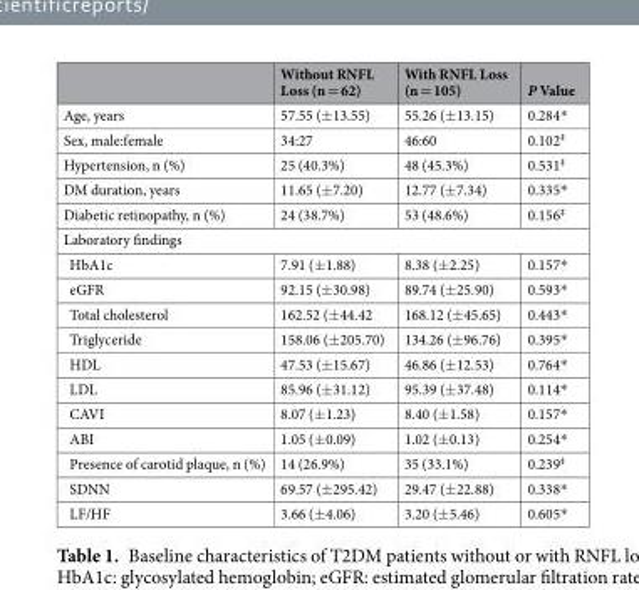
<table><thead><tr><td></td><td>Without RNFL Loss (n = 62)</td><td>With RNFL Loss (n = 105)</td><td>P Value</td></tr></thead><tbody><tr><td>Age, years</td><td>57.55 (±13.55)</td><td>55.26 (±13.15)</td><td>0.284*</td></tr><tr><td>Sex, male:female</td><td>34:27</td><td>46:60</td><td>0.102<sup>‡</sup></td></tr><tr><td>Hypertension, n (%)</td><td>25 (40.3%)</td><td>48 (45.3%)</td><td>0.531<sup>‡</sup></td></tr><tr><td>DM duration, years</td><td>11.65 (±7.20)</td><td>12.77 (±7.34)</td><td>0.335*</td></tr><tr><td>Diabetic retinopathy, n (%)</td><td>24 (38.7%)</td><td>53 (48.6%)</td><td>0.156<sup>‡</sup></td></tr><tr><td colspan="4">Laboratory findings</td></tr><tr><td>HbA1c</td><td>7.91 (±1.88)</td><td>8.38 (±2.25)</td><td>0.157*</td></tr><tr><td>eGFR</td><td>92.15 (±30.98)</td><td>89.74 (±25.90)</td><td>0.593*</td></tr><tr><td>Total cholesterol</td><td>162.52 (±44.42</td><td>168.12 (±45.65)</td><td>0.443*</td></tr><tr><td>Triglyceride</td><td>158.06 (±205.70)</td><td>134.26 (±96.76)</td><td>0.395*</td></tr><tr><td>HDL</td><td>47.53 (±15.67)</td><td>46.86 (±12.53)</td><td>0.764*</td></tr><tr><td>LDL</td><td>85.96 (±31.12)</td><td>95.39 (±37.48)</td><td>0.114*</td></tr><tr><td>CAVI</td><td>8.07 (±1.23)</td><td>8.40 (±1.58)</td><td>0.157*</td></tr><tr><td>ABI</td><td>1.05 (±0.09)</td><td>1.02 (±0.13)</td><td>0.254*</td></tr><tr><td>Presence of carotid plaque, n (%)</td><td>14 (26.9%)</td><td>35 (33.1%)</td><td>0.239<sup>‡</sup></td></tr><tr><td>SDNN</td><td>69.57 (±295.42)</td><td>29.47 (±22.88)</td><td>0.338*</td></tr><tr><td>LF/HF</td><td>3.66 (±4.06)</td><td>3.20 (±5.46)</td><td>0.605*</td></tr></tbody></table>